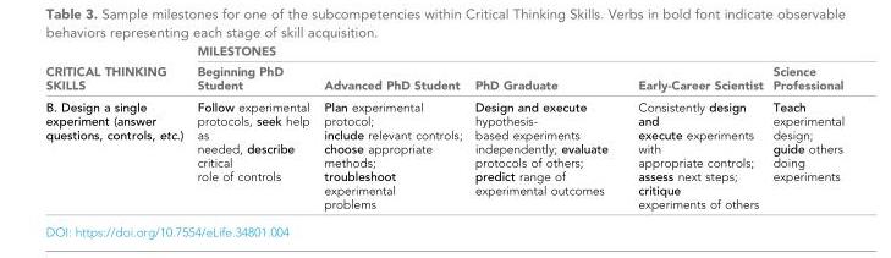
<table><thead><tr><td rowspan="2">CRITICAL THINKING SKILLS</td><td colspan="5">MILESTONES</td></tr><tr><td>Beginning PhD Student</td><td>Advanced PhD Student</td><td>PhD Graduate</td><td>Early-Career Scientist</td><td>Science Professional</td></tr></thead><tbody><tr><td>B. Design a single experiment (answer questions, controls, etc.)</td><td>Follow experimental protocols, seek help as needed, describe critical role of controls</td><td>Plan experimental protocol; include relevant controls; choose appropriate methods; troubleshoot experimental problems</td><td>Design and execute hypothesis- based experiments independently; evaluate protocols of others; predict range of experimental outcomes</td><td>Consistently design and execute experiments with appropriate controls; assess next steps; critique experiments of others</td><td>Teach experimental design; guide others doing experiments</td></tr></tbody></table>